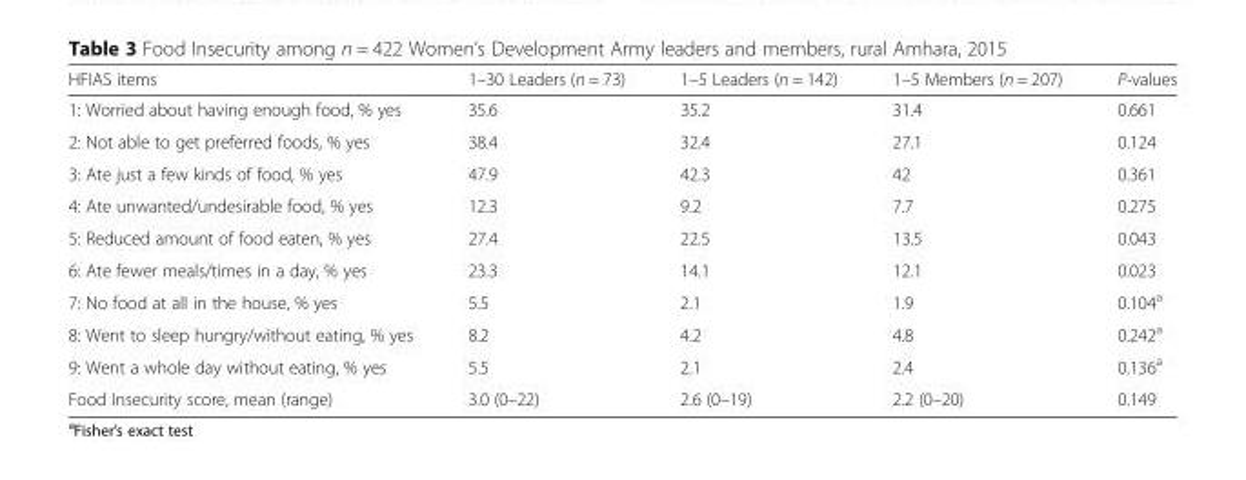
<table><thead><tr><td>HFIAS items</td><td>1–30 Leaders (n = 73)</td><td>1–5 Leaders (n = 142)</td><td>1–5 Members (n = 207)</td><td>P-values</td></tr></thead><tbody><tr><td>1: Worried about having enough food, % yes</td><td>35.6</td><td>35.2</td><td>31.4</td><td>0.661</td></tr><tr><td>2: Not able to get preferred foods, % yes</td><td>38.4</td><td>32.4</td><td>27.1</td><td>0.124</td></tr><tr><td>3: Ate just a few kinds of food, % yes</td><td>47.9</td><td>42.3</td><td>42</td><td>0.361</td></tr><tr><td>4: Ate unwanted/undesirable food, % yes</td><td>12.3</td><td>9.2</td><td>7.7</td><td>0.275</td></tr><tr><td>5: Reduced amount of food eaten, % yes</td><td>27.4</td><td>22.5</td><td>13.5</td><td>0.043</td></tr><tr><td>6: Ate fewer meals/times in a day, % yes</td><td>23.3</td><td>14.1</td><td>12.1</td><td>0.023</td></tr><tr><td>7: No food at all in the house, % yes</td><td>5.5</td><td>2.1</td><td>1.9</td><td>0.104<sup>a</sup></td></tr><tr><td>8: Went to sleep hungry/without eating, % yes</td><td>8.2</td><td>4.2</td><td>4.8</td><td>0.242<sup>a</sup></td></tr><tr><td>9: Went a whole day without eating, % yes</td><td>5.5</td><td>2.1</td><td>2.4</td><td>0.136<sup>a</sup></td></tr><tr><td>Food Insecurity score, mean (range)</td><td>3.0 (0–22)</td><td>2.6 (0–19)</td><td>2.2 (0–20)</td><td>0.149</td></tr></tbody></table>